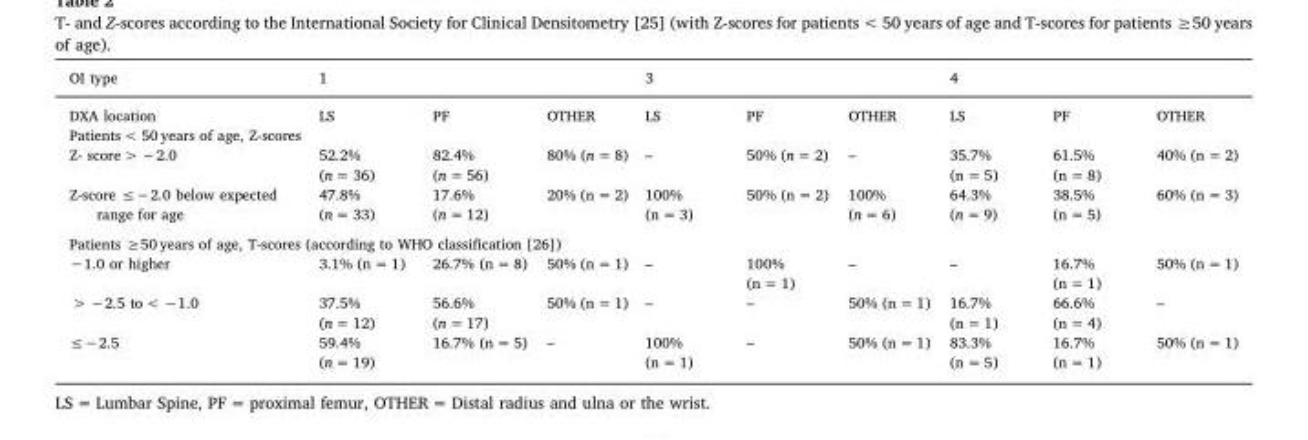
<table><thead><tr><td rowspan="2">OI type DXA location</td><td colspan="3">1</td><td colspan="3">3</td><td colspan="3">4</td></tr><tr><td>LS</td><td>PF</td><td>OTHER</td><td>LS</td><td>PF</td><td>OTHER</td><td>LS</td><td>PF</td><td>OTHER</td></tr></thead><tbody><tr><td colspan="10">Patients &lt; 50 years of age, Z-scores</td></tr><tr><td>Z- score &gt; −2.0</td><td>52.2% (n = 36)</td><td>82.4% (n = 56)</td><td>80% (n = 8)</td><td>–</td><td>50% (n = 2)</td><td>–</td><td>35.7% (n = 5)</td><td>61.5% (n = 8)</td><td>40% (n = 2)</td></tr><tr><td>Z-score ≤−2.0 below expected range for age</td><td>47.8% (n = 33)</td><td>17.6% (n = 12)</td><td>20% (n = 2)</td><td>100% (n = 3)</td><td>50% (n = 2)</td><td>100% (n = 6)</td><td>64.3% (n = 9)</td><td>38.5% (n = 5)</td><td>60% (n = 3)</td></tr><tr><td colspan="10">Patients ≥50 years of age, T-scores (according to WHO classification [26])</td></tr><tr><td>−1.0 or higher</td><td>3.1% (n = 1)</td><td>26.7% (n = 8)</td><td>50% (n = 1)</td><td>–</td><td>100% (n = 1)</td><td>–</td><td>–</td><td>16.7% (n = 1)</td><td>50% (n = 1)</td></tr><tr><td>&gt; −2.5 to &lt; −1.0</td><td>37.5% (n = 12)</td><td>56.6% (n = 17)</td><td>50% (n = 1)</td><td>–</td><td>–</td><td>50% (n = 1)</td><td>16.7% (n = 1)</td><td>66.6% (n = 4)</td><td>–</td></tr><tr><td>≤−2.5</td><td>59.4% (n = 19)</td><td>16.7% (n = 5)</td><td>–</td><td>100% (n = 1)</td><td>–</td><td>50% (n = 1)</td><td>83.3% (n = 5)</td><td>16.7% (n = 1)</td><td>50% (n = 1)</td></tr></tbody></table>